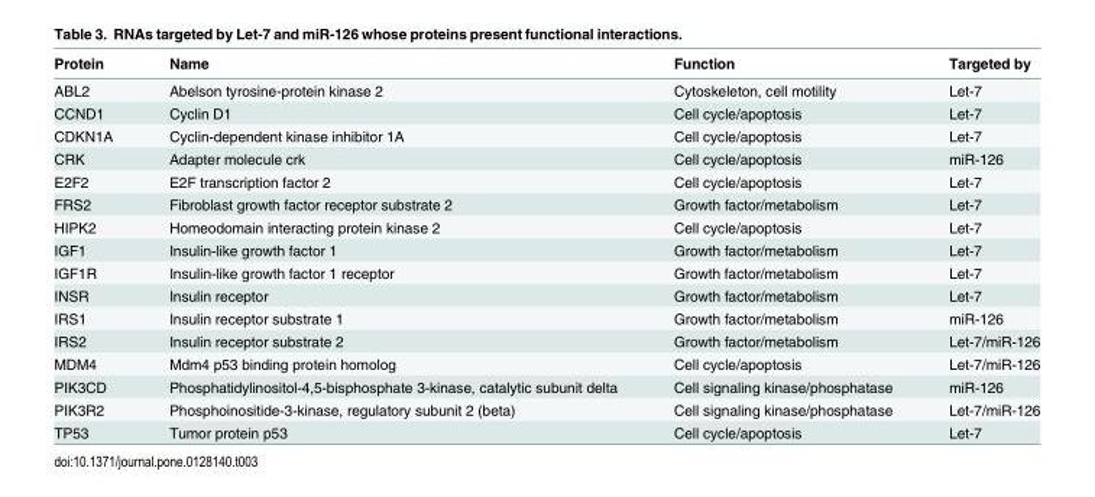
<table><thead><tr><td>Protein</td><td>Name</td><td>Function</td><td>Targeted by</td></tr></thead><tbody><tr><td>ABL2</td><td>Abelson tyrosine-protein kinase 2</td><td>Cytoskeleton, cell motility</td><td>Let-7</td></tr><tr><td>CCND1</td><td>Cyclin D1</td><td>Cell cycle/apoptosis</td><td>Let-7</td></tr><tr><td>CDKN1A</td><td>Cyclin-dependent kinase inhibitor 1A</td><td>Cell cycle/apoptosis</td><td>Let-7</td></tr><tr><td>CRK</td><td>Adapter molecule crk</td><td>Cell cycle/apoptosis</td><td>miR-126</td></tr><tr><td>E2F2</td><td>E2F transcription factor 2</td><td>Cell cycle/apoptosis</td><td>Let-7</td></tr><tr><td>FRS2</td><td>Fibroblast growth factor receptor substrate 2</td><td>Growth factor/metabolism</td><td>Let-7</td></tr><tr><td>HIPK2</td><td>Homeodomain interacting protein kinase 2</td><td>Cell cycle/apoptosis</td><td>Let-7</td></tr><tr><td>IGF1</td><td>Insulin-like growth factor 1</td><td>Growth factor/metabolism</td><td>Let-7</td></tr><tr><td>IGF1R</td><td>Insulin-like growth factor 1 receptor</td><td>Growth factor/metabolism</td><td>Let-7</td></tr><tr><td>INSR</td><td>Insulin receptor</td><td>Growth factor/metabolism</td><td>Let-7</td></tr><tr><td>IRS1</td><td>Insulin receptor substrate 1</td><td>Growth factor/metabolism</td><td>miR-126</td></tr><tr><td>IRS2</td><td>Insulin receptor substrate 2</td><td>Growth factor/metabolism</td><td>Let-7/miR-126</td></tr><tr><td>MDM4</td><td>Mdm4 p53 binding protein homolog</td><td>Cell cycle/apoptosis</td><td>Let-7/miR-126</td></tr><tr><td>PIK3CD</td><td>Phosphatidylinositol-4,5-bisphosphate 3-kinase, catalytic subunit delta</td><td>Cell signaling kinase/phosphatase</td><td>miR-126</td></tr><tr><td>PIK3R2</td><td>Phosphoinositide-3-kinase, regulatory subunit 2 (beta)</td><td>Cell signaling kinase/phosphatase</td><td>Let-7/miR-126</td></tr><tr><td>TP53</td><td>Tumor protein p53</td><td>Cell cycle/apoptosis</td><td>Let-7</td></tr></tbody></table>